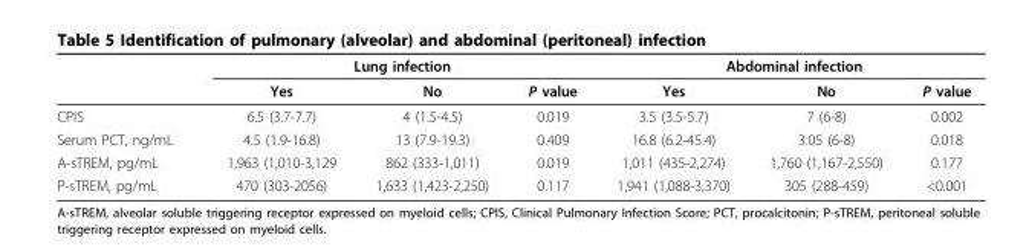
<table><thead><tr><td rowspan="2"></td><td colspan="3">Lung infection</td><td colspan="3">Abdominal infection</td></tr><tr><td>Yes</td><td>No</td><td>P value</td><td>Yes</td><td>No</td><td>P value</td></tr></thead><tbody><tr><td>CPIS</td><td>6.5 (3.7-7.7)</td><td>4 (1.5-4.5)</td><td>0.019</td><td>3.5 (3.5-5.7)</td><td>7 (6-8)</td><td>0.002</td></tr><tr><td>Serum PCT, ng/mL</td><td>4.5 (1.9-16.8)</td><td>13 (7.9-19.3)</td><td>0.409</td><td>16.8 (6.2-45.4)</td><td>3.05 (6-8)</td><td>0.018</td></tr><tr><td>A-sTREM, pg/mL</td><td>1,963 (1,010-3,129</td><td>862 (333-1,011)</td><td>0.019</td><td>1,011 (435-2,274)</td><td>1,760 (1,167-2,550)</td><td>0.177</td></tr><tr><td>P-sTREM, pg/mL</td><td>470 (303-2056)</td><td>1,633 (1,423-2,250)</td><td>0.117</td><td>1,941 (1,088-3,370)</td><td>305 (288-459)</td><td>&lt;0.001</td></tr></tbody></table>